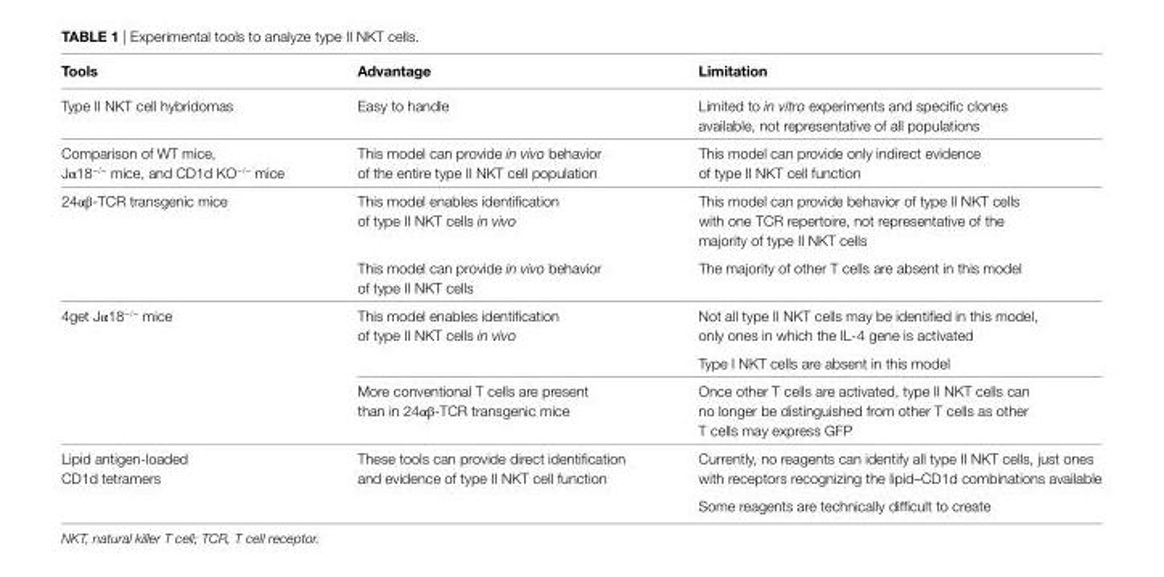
<table><thead><tr><td>Tools</td><td>Advantage</td><td>Limitation</td></tr></thead><tbody><tr><td>Type II NKT cell hybridomas</td><td>Easy to handle</td><td>Limited to in vitro experiments and specific clones available, not representative of all populations</td></tr><tr><td>Comparison of WT mice, Jα18<sup>−/−</sup> mice, and CD1d KO<sup>−/−</sup> mice</td><td>This model can provide in vivo behavior of the entire type II NKT cell population</td><td>This model can provide only indirect evidence of type II NKT cell function</td></tr><tr><td rowspan="2">24αβ-TCR transgenic mice</td><td>This model enables identification of type II NKT cells in vivo</td><td>This model can provide behavior of type II NKT cells with one TCR repertoire, not representative of the majority of type II NKT cells</td></tr><tr><td>This model can provide in vivo behavior of type II NKT cells</td><td>The majority of other T cells are absent in this model</td></tr><tr><td rowspan="3">4get Jα18<sup>−/−</sup> mice</td><td rowspan="2">This model enables identification of type II NKT cells in vivo</td><td>Not all type II NKT cells may be identified in this model, only ones in which the IL-4 gene is activated</td></tr><tr><td>Type I NKT cells are absent in this model</td></tr><tr><td>More conventional T cells are present than in 24αβ-TCR transgenic mice</td><td>Once other T cells are activated, type II NKT cells can no longer be distinguished from other T cells as other T cells may express GFP</td></tr><tr><td rowspan="2">Lipid antigen-loaded CD1d tetramers</td><td rowspan="2">These tools can provide direct identification and evidence of type II NKT cell function</td><td>Currently, no reagents can identify all type II NKT cells, just ones with receptors recognizing the lipid–CD1d combinations available</td></tr><tr><td>Some reagents are technically difficult to create</td></tr></tbody></table>